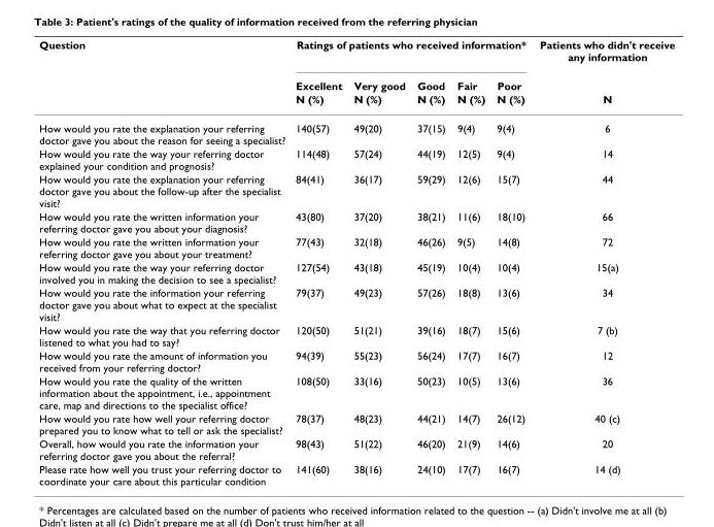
<table><thead><tr><td rowspan="3">Question</td><td colspan="5">Ratings of patients who received information*</td><td rowspan="3">Patients who didn&#x27;t receive any information N</td></tr><tr><td rowspan="2">Excellent N (%)</td><td rowspan="2">Very good N (%)</td><td rowspan="2">Good N (%)</td><td rowspan="2">Fair N (%)</td><td rowspan="2">Poor N (%)</td></tr><tr></tr></thead><tbody><tr><td>How would you rate the explanation your referring doctor gave you about the reason for seeing a specialist?</td><td>140(57)</td><td>49(20)</td><td>37(15)</td><td>9(4)</td><td>9(4)</td><td>6</td></tr><tr><td>How would you rate the way your referring doctor explained your condition and prognosis?</td><td>114(48)</td><td>57(24)</td><td>44(19)</td><td>12(5)</td><td>9(4)</td><td>14</td></tr><tr><td>How would you rate the explanation your referring doctor gave you about the follow-up after the specialist visit?</td><td>84(41)</td><td>36(17)</td><td>59(29)</td><td>12(6)</td><td>15(7)</td><td>44</td></tr><tr><td>How would you rate the written information your referring doctor gave you about your diagnosis?</td><td>43(80)</td><td>37(20)</td><td>38(21)</td><td>11(6)</td><td>18(10)</td><td>66</td></tr><tr><td>How would you rate the written information your referring doctor gave you about your treatment?</td><td>77(43)</td><td>32(18)</td><td>46(26)</td><td>9(5)</td><td>14(8)</td><td>72</td></tr><tr><td>How would you rate the way your referring doctor involved you in making the decision to see a specialist?</td><td>127(54)</td><td>43(18)</td><td>45(19)</td><td>10(4)</td><td>10(4)</td><td>15(a)</td></tr><tr><td>How would you rate the information your referring doctor gave you about what to expect at the specialist visit?</td><td>79(37)</td><td>49(23)</td><td>57(26)</td><td>18(8)</td><td>13(6)</td><td>34</td></tr><tr><td>How would you rate the way that you referring doctor listened to what you had to say?</td><td>120(50)</td><td>51(21)</td><td>39(16)</td><td>18(7)</td><td>15(6)</td><td>7 (b)</td></tr><tr><td>How would you rate the amount of information you received from your referring doctor?</td><td>94(39)</td><td>55(23)</td><td>56(24)</td><td>17(7)</td><td>16(7)</td><td>12</td></tr><tr><td>How would you rate the quality of the written information about the appointment, i.e., appointment care, map and directions to the specialist office?</td><td>108(50)</td><td>33(16)</td><td>50(23)</td><td>10(5)</td><td>13(6)</td><td>36</td></tr><tr><td>How would you rate how well your referring doctor prepared you to know what to tell or ask the specialist?</td><td>78(37)</td><td>48(23)</td><td>44(21)</td><td>14(7)</td><td>26(12)</td><td>40 (c)</td></tr><tr><td>Overall, how would you rate the information your referring doctor gave you about the referral?</td><td>98(43)</td><td>51(22)</td><td>46(20)</td><td>21(9)</td><td>14(6)</td><td>20</td></tr><tr><td>Please rate how well you trust your referring doctor to coordinate your care about this particular condition</td><td>141(60)</td><td>38(16)</td><td>24(10)</td><td>17(7)</td><td>16(7)</td><td>14 (d)</td></tr></tbody></table>